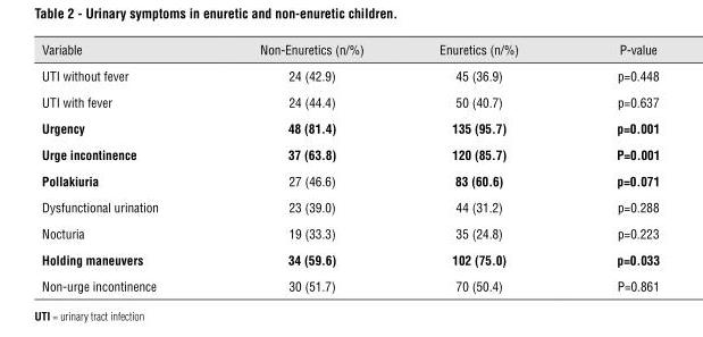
<table><thead><tr><td>Variable</td><td>Non-Enuretics (n/%)</td><td>Enuretics (n/%)</td><td>P-value</td></tr></thead><tbody><tr><td>UTI without fever</td><td>24 (42.9)</td><td>45 (36.9)</td><td>p=0.448</td></tr><tr><td>UTI with fever</td><td>24 (44.4)</td><td>50 (40.7)</td><td>p=0.637</td></tr><tr><td>Urgency</td><td>48 (81.4)</td><td>135 (95.7)</td><td>p=0.001</td></tr><tr><td>Urge incontinence</td><td>37 (63.8)</td><td>120 (85.7)</td><td>p=0.001</td></tr><tr><td>pollakiuria</td><td>27 (46.6)</td><td>83 (60.6)</td><td>p=0.071</td></tr><tr><td>Dysfunctional urination</td><td>23 (39.0)</td><td>44 (31.2)</td><td>p=0.288</td></tr><tr><td>Nocturia</td><td>19 (33.3)</td><td>35 (24.8)</td><td>p=0.223</td></tr><tr><td>holding maneuvers</td><td>34 (59.6)</td><td>102 (75.0)</td><td>p=0.033</td></tr><tr><td>Non-urge incontinence</td><td>30 (51.7)</td><td>70 (50.4)</td><td>P=0.861</td></tr></tbody></table>